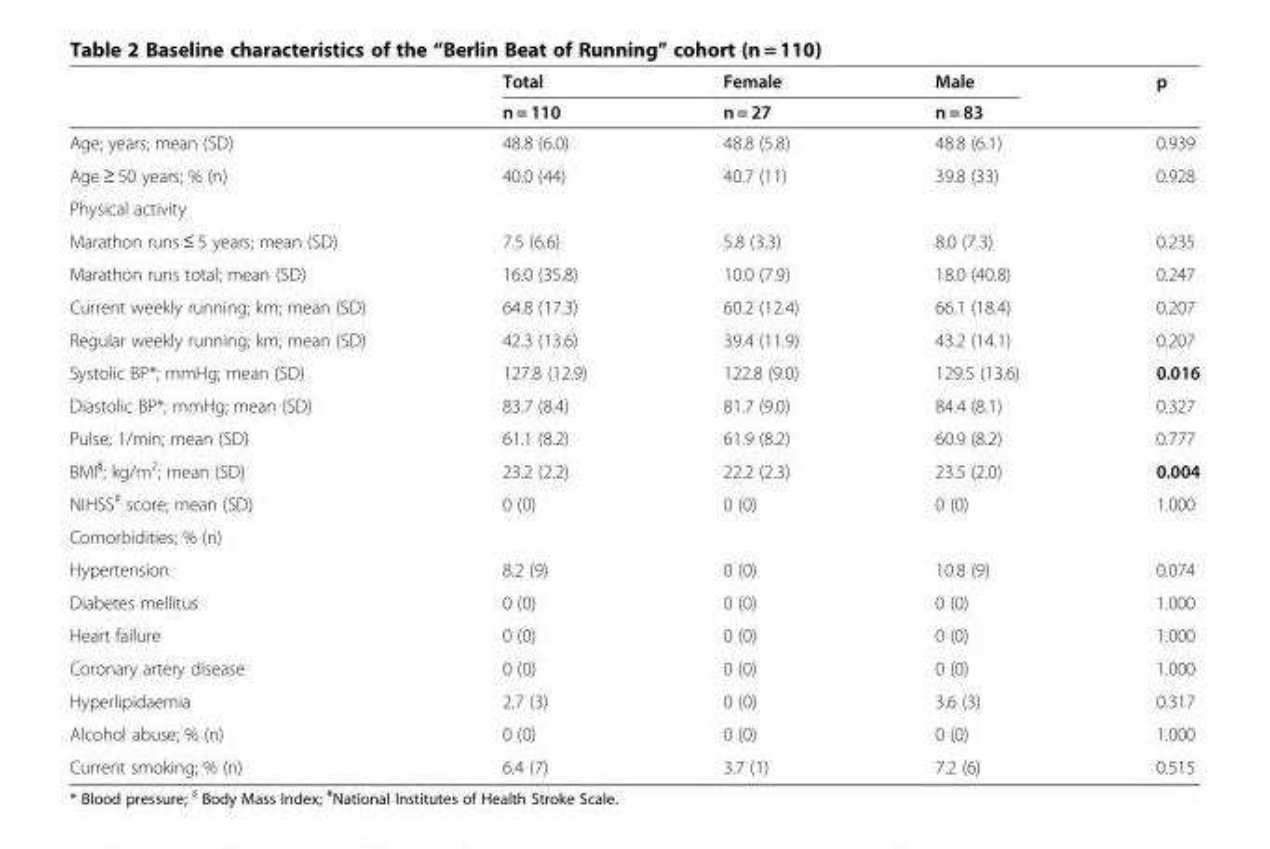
<table><thead><tr><td rowspan="2"></td><td rowspan="2">Total n = 110</td><td rowspan="2">Female n = 27</td><td rowspan="2">Male n = 83</td><td rowspan="2">p</td></tr><tr></tr></thead><tbody><tr><td>Age; years; mean (SD)</td><td>48.8 (6.0)</td><td>48.8 (5.8)</td><td>48.8 (6.1)</td><td>0.939</td></tr><tr><td>Age ≥ 50 years; % (n)</td><td>40.0 (44)</td><td>40.7 (11)</td><td>39.8 (33)</td><td>0.928</td></tr><tr><td colspan="5">Physical activity</td></tr><tr><td>Marathon runs ≤ 5 years; mean (SD)</td><td>7.5 (6.6)</td><td>5.8 (3.3)</td><td>8.0 (7.3)</td><td>0.235</td></tr><tr><td>Marathon runs total; mean (SD)</td><td>16.0 (35.8)</td><td>10.0 (7.9)</td><td>18.0 (40.8)</td><td>0.247</td></tr><tr><td>Current weekly running; km; mean (SD)</td><td>64.8 (17.3)</td><td>60.2 (12.4)</td><td>66.1 (18.4)</td><td>0.207</td></tr><tr><td>Regular weekly running; km; mean (SD)</td><td>42.3 (13.6)</td><td>39.4 (11.9)</td><td>43.2 (14.1)</td><td>0.207</td></tr><tr><td>Systolic BP*; mmHg; mean (SD)</td><td>127.8 (12.9)</td><td>122.8 (9.0)</td><td>129.5 (13.6)</td><td>0.016</td></tr><tr><td>Diastolic BP*; mmHg; mean (SD)</td><td>83.7 (8.4)</td><td>81.7 (9.0)</td><td>84.4 (8.1)</td><td>0.327</td></tr><tr><td>Pulse; 1/min; mean (SD)</td><td>61.1 (8.2)</td><td>61.9 (8.2)</td><td>60.9 (8.2)</td><td>0.777</td></tr><tr><td>BMI<sup>§</sup>; kg/m<sup>2</sup>; mean (SD)</td><td>23.2 (2.2)</td><td>22.2 (2.3)</td><td>23.5 (2.0)</td><td>0.004</td></tr><tr><td>NIHSS<sup>#</sup> score; mean (SD)</td><td>0 (0)</td><td>0 (0)</td><td>0 (0)</td><td>1.000</td></tr><tr><td colspan="5">Comorbidities; % (n)</td></tr><tr><td>Hypertension</td><td>8.2 (9)</td><td>0 (0)</td><td>10.8 (9)</td><td>0.074</td></tr><tr><td>Diabetes mellitus</td><td>0 (0)</td><td>0 (0)</td><td>0 (0)</td><td>1.000</td></tr><tr><td>Heart failure</td><td>0 (0)</td><td>0 (0)</td><td>0 (0)</td><td>1.000</td></tr><tr><td>Coronary artery disease</td><td>0 (0)</td><td>0 (0)</td><td>0 (0)</td><td>1.000</td></tr><tr><td>Hyperlipidaemia</td><td>2.7 (3)</td><td>0 (0)</td><td>3.6 (3)</td><td>0.317</td></tr><tr><td>Alcohol abuse; % (n)</td><td>0 (0)</td><td>0 (0)</td><td>0 (0)</td><td>1.000</td></tr><tr><td>Current smoking; % (n)</td><td>6.4 (7)</td><td>3.7 (1)</td><td>7.2 (6)</td><td>0.515</td></tr></tbody></table>